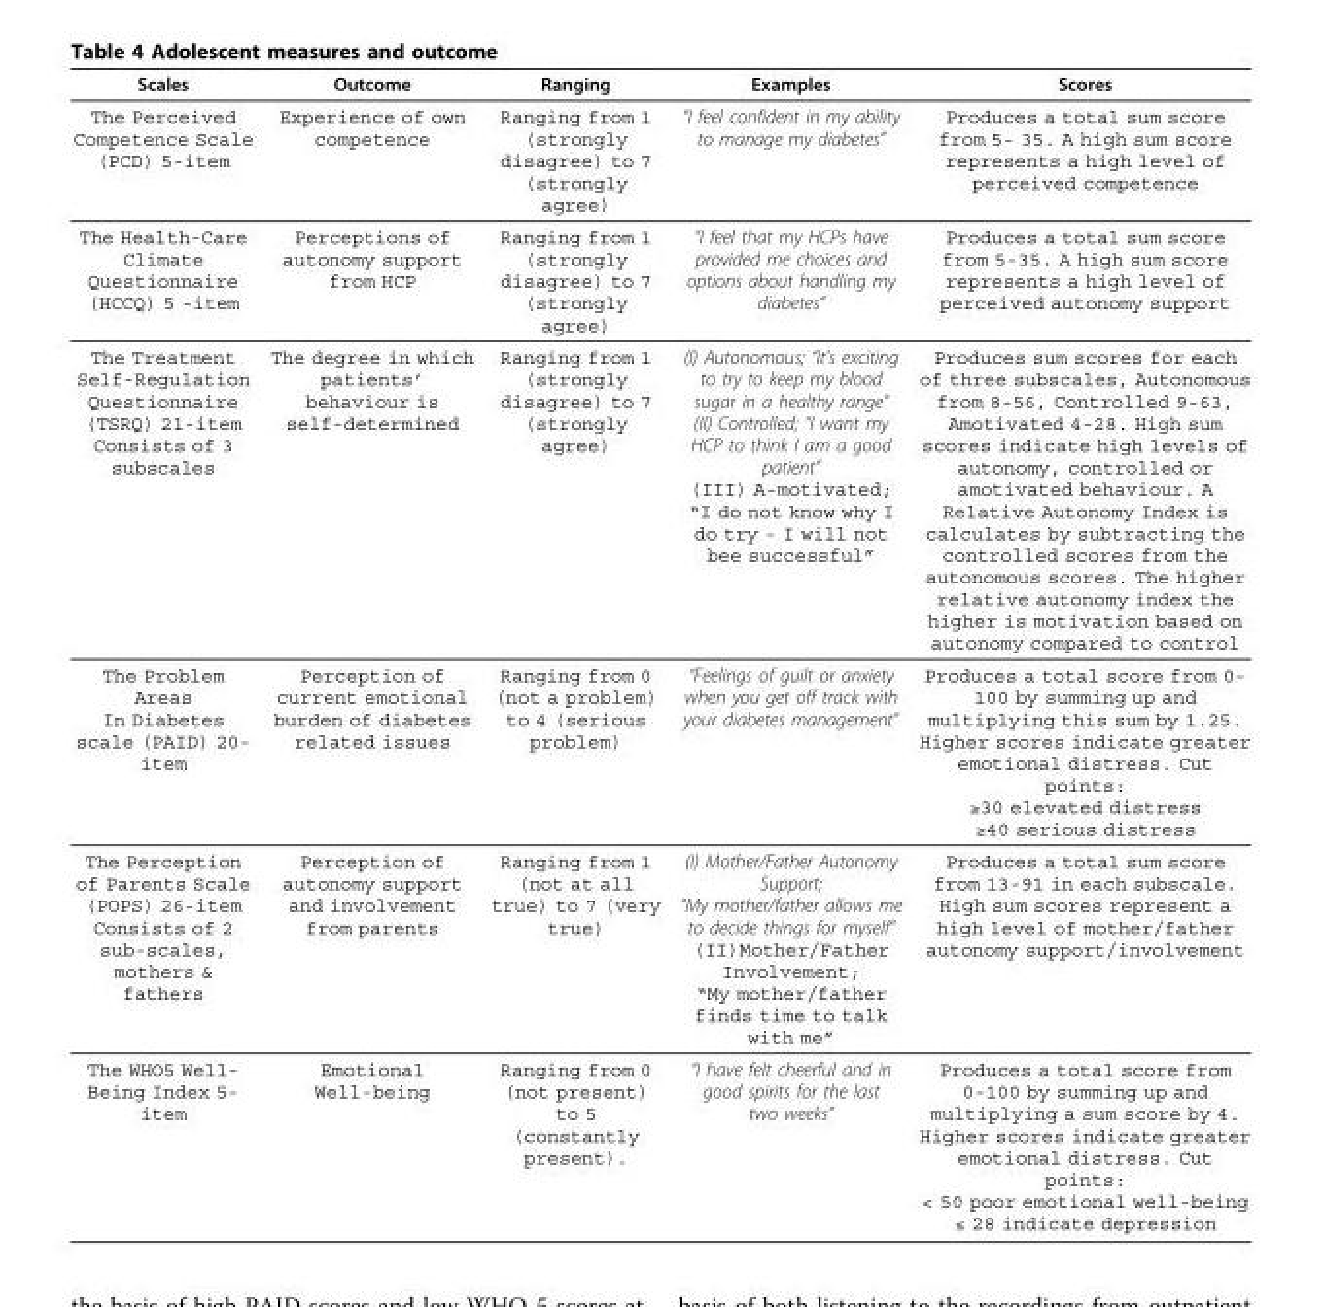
<table><thead><tr><td>Scales</td><td>Outcome</td><td>Ranging</td><td>Examples</td><td>Scores</td></tr></thead><tbody><tr><td>The Perceived Competence Scale (PCD) 5-item</td><td>Experience of own competence</td><td>Ranging from 1 (strongly disagree) to 7 (strongly agree)</td><td>“I feel confident in my ability to manage my diabetes”</td><td>Produces a total sum score from 5- 35. A high sum score represents a high level of perceived competence</td></tr><tr><td>The Health-Care Climate Questionnaire (HCCQ) 5 -item</td><td>Perceptions of autonomy support from HCP</td><td>Ranging from 1 (strongly disagree) to 7 (strongly agree)</td><td>“I feel that my HCPs have provided me choices and options about handling my diabetes”</td><td>Produces a total sum score from 5-35. A high sum score represents a high level of perceived autonomy support</td></tr><tr><td>The Treatment Self-Regulation Questionnaire (TSRQ) 21-item Consists of 3 subscales</td><td>The degree in which patients’ behaviour is self-determined</td><td>Ranging from 1 (strongly disagree) to 7 (strongly agree)</td><td>(I) Autonomous; “It’s exciting to try to keep my blood sugar in a healthy range” (II) Controlled; “I want my HCP to think I am a good patient” (III) A-motivated; “I do not know why I do try - I will not bee successful”</td><td>Produces sum scores for each of three subscales, Autonomous from 8-56, Controlled 9-63, Amotivated 4-28. High sum scores indicate high levels of autonomy, controlled or amotivated behaviour. A Relative Autonomy Index is calculates by subtracting the controlled scores from the autonomous scores. The higher relative autonomy index the higher is motivation based on autonomy compared to control</td></tr><tr><td>The Problem Areas In Diabetes scale (PAID) 20- item</td><td>Perception of current emotional burden of diabetes related issues</td><td>Ranging from 0 (not a problem) to 4 (serious problem)</td><td>“Feelings of guilt or anxiety when you get off track with your diabetes management”</td><td>Produces a total score from 0- 100 by summing up and multiplying this sum by 1.25. Higher scores indicate greater emotional distress. Cut points: ≥30 elevated distress ≥40 serious distress</td></tr><tr><td>The Perception of Parents Scale (POPS) 26-item Consists of 2 sub-scales, mothers &amp; fathers</td><td>Perception of autonomy support and involvement from parents</td><td>Ranging from 1 (not at all true) to 7 (very true)</td><td>(I) Mother/Father Autonomy Support; “My mother/father allows me to decide things for myself” (II)Mother/Father Involvement; “My mother/father finds time to talk with me”</td><td>Produces a total sum score from 13-91 in each subscale. High sum scores represent a high level of mother/father autonomy support/involvement</td></tr><tr><td>The WHO5 Well- Being Index 5- item</td><td>Emotional Well-being</td><td>Ranging from 0 (not present) to 5 (constantly present).</td><td>“I have felt cheerful and in good spirits for the last two weeks”</td><td>Produces a total score from 0-100 by summing up and multiplying a sum score by 4. Higher scores indicate greater emotional distress. Cut points: &lt; 50 poor emotional well-being ≤ 28 indicate depression</td></tr></tbody></table>